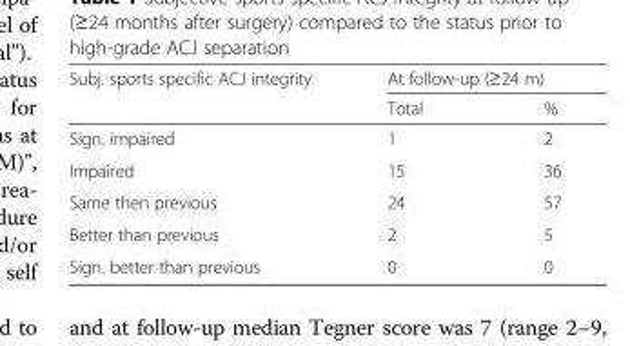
<table><thead><tr><td rowspan="2">Subj. sports specific ACJ integrity</td><td colspan="2">At follow-up (≥24 m)</td></tr><tr><td>Total</td><td>%</td></tr></thead><tbody><tr><td>Sign. impaired</td><td>1</td><td>2</td></tr><tr><td>Impaired</td><td>15</td><td>36</td></tr><tr><td>Same then previous</td><td>24</td><td>57</td></tr><tr><td>Better than previous</td><td>2</td><td>5</td></tr><tr><td>Sign. better than previous</td><td>0</td><td>0</td></tr></tbody></table>